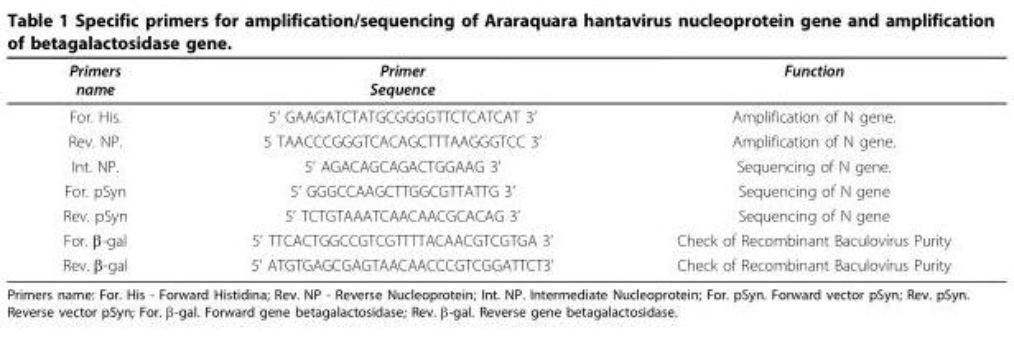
<table><thead><tr><td>Primers name</td><td>Primer Sequence</td><td>Function</td></tr></thead><tbody><tr><td>For. His.</td><td>5’ GAAGATCTATGCGGGGTTCTCATCAT 3’</td><td>Amplification of N gene.</td></tr><tr><td>Rev. NP.</td><td>5 TAACCCGGGTCACAGCTTTAAGGGTCC 3’</td><td>Amplification of N gene.</td></tr><tr><td>Int. NP.</td><td>5’ AGACAGCAGACTGGAAG 3’</td><td>Sequencing of N gene.</td></tr><tr><td>For. pSyn</td><td>5’ GGGCCAAGCTTGGCGTTATTG 3’</td><td>Sequencing of N gene</td></tr><tr><td>Rev. pSyn</td><td>5’ TCTGTAAATCAACAACGCACAG 3’</td><td>Sequencing of N gene</td></tr><tr><td>For. β-gal</td><td>5’ TTCACTGGCCGTCGTTTTACAACGTCGTGA 3’</td><td>Check of Recombinant Baculovírus Purity</td></tr><tr><td>Rev. β-gal</td><td>5’ ATGTGAGCGAGTAACAACCCGTCGGATTCT3’</td><td>Check of Recombinant Baculovírus Purity</td></tr></tbody></table>